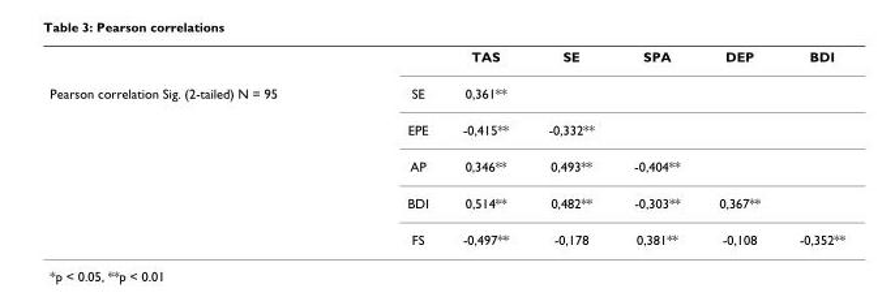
<table><thead><tr><td></td><td></td><td>TAS</td><td>SE</td><td>SPA</td><td>DEP</td><td>BDI</td></tr></thead><tbody><tr><td rowspan="5">Pearson correlation Sig. (2-tailed) N = 95</td><td>SE</td><td>0,361**</td><td></td><td></td><td></td><td></td></tr><tr><td>EPE</td><td>-0,415**</td><td>-0,332**</td><td></td><td></td><td></td></tr><tr><td>AP</td><td>0,346**</td><td>0,493**</td><td>-0,404**</td><td></td><td></td></tr><tr><td>BDI</td><td>0,514**</td><td>0,482**</td><td>-0,303**</td><td>0,367**</td><td></td></tr><tr><td>FS</td><td>-0,497**</td><td>-0,178</td><td>0,381**</td><td>-0,108</td><td>-0,352**</td></tr></tbody></table>